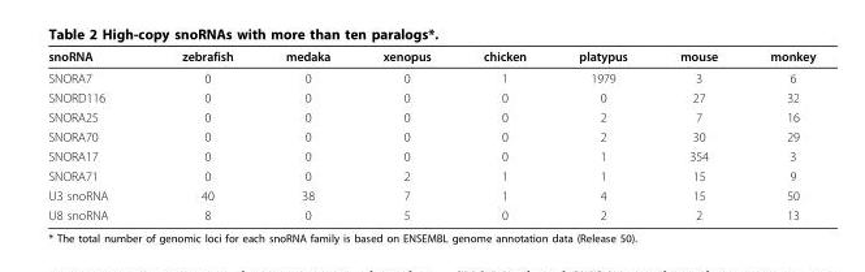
<table><thead><tr><td>snoRNA</td><td>zebrafish</td><td>medaka</td><td>xenopus</td><td>chicken</td><td>platypus</td><td>mouse</td><td>monkey</td></tr></thead><tbody><tr><td>SNORA7</td><td>0</td><td>0</td><td>0</td><td>1</td><td>1979</td><td>3</td><td>6</td></tr><tr><td>SNORD116</td><td>0</td><td>0</td><td>0</td><td>0</td><td>0</td><td>27</td><td>32</td></tr><tr><td>SNORA25</td><td>0</td><td>0</td><td>0</td><td>0</td><td>2</td><td>7</td><td>16</td></tr><tr><td>SNORA70</td><td>0</td><td>0</td><td>0</td><td>0</td><td>2</td><td>30</td><td>29</td></tr><tr><td>SNORA17</td><td>0</td><td>0</td><td>0</td><td>0</td><td>1</td><td>354</td><td>3</td></tr><tr><td>SNORA71</td><td>0</td><td>0</td><td>2</td><td>1</td><td>1</td><td>15</td><td>9</td></tr><tr><td>U3 snoRNA</td><td>40</td><td>38</td><td>7</td><td>1</td><td>4</td><td>15</td><td>50</td></tr><tr><td>U8 snoRNA</td><td>8</td><td>0</td><td>5</td><td>0</td><td>2</td><td>2</td><td>13</td></tr></tbody></table>